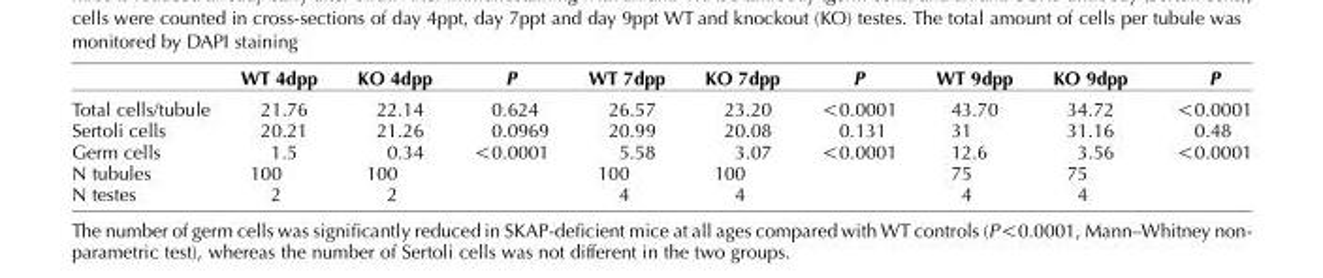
<table><thead><tr><td></td><td>WT 4dpp</td><td>KO 4dpp</td><td>P</td><td>WT 7dpp</td><td>KO 7dpp</td><td>P</td><td>WT 9dpp</td><td>KO 9dpp</td><td>P</td></tr></thead><tbody><tr><td>Total cells/tubule</td><td>21.76</td><td>22.14</td><td>0.624</td><td>26.57</td><td>23.20</td><td>&lt;0.0001</td><td>43.70</td><td>34.72</td><td>&lt;0.0001</td></tr><tr><td>Sertoli cells</td><td>20.21</td><td>21.26</td><td>0.0969</td><td>20.99</td><td>20.08</td><td>0.131</td><td>31</td><td>31.16</td><td>0.48</td></tr><tr><td>Germ cells</td><td>1.5</td><td>0.34</td><td>&lt;0.0001</td><td>5.58</td><td>3.07</td><td>&lt;0.0001</td><td>12.6</td><td>3.56</td><td>&lt;0.0001</td></tr><tr><td>N tubules</td><td>100</td><td>100</td><td></td><td>100</td><td>100</td><td></td><td>75</td><td>75</td><td></td></tr><tr><td>N testes</td><td>2</td><td>2</td><td></td><td>4</td><td>4</td><td></td><td>4</td><td>4</td><td></td></tr></tbody></table>